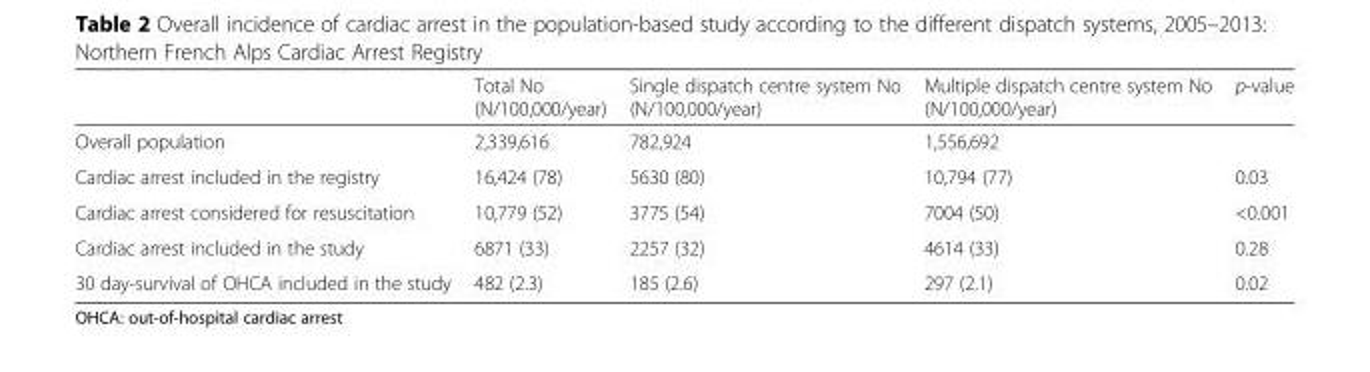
<table><thead><tr><td></td><td>Total No (N/100,000/year)</td><td>Single dispatch centre system No (N/100,000/year)</td><td>Multiple dispatch centre system No (N/100,000/year)</td><td>p-value</td></tr></thead><tbody><tr><td>Overall population</td><td>2,339,616</td><td>782,924</td><td>1,556,692</td><td></td></tr><tr><td>Cardiac arrest included in the registry</td><td>16,424 (78)</td><td>5630 (80)</td><td>10,794 (77)</td><td>0.03</td></tr><tr><td>Cardiac arrest considered for resuscitation</td><td>10,779 (52)</td><td>3775 (54)</td><td>7004 (50)</td><td>&lt;0.001</td></tr><tr><td>Cardiac arrest included in the study</td><td>6871 (33)</td><td>2257 (32)</td><td>4614 (33)</td><td>0.28</td></tr><tr><td>30 day-survival of OHCA included in the study</td><td>482 (2.3)</td><td>185 (2.6)</td><td>297 (2.1)</td><td>0.02</td></tr></tbody></table>